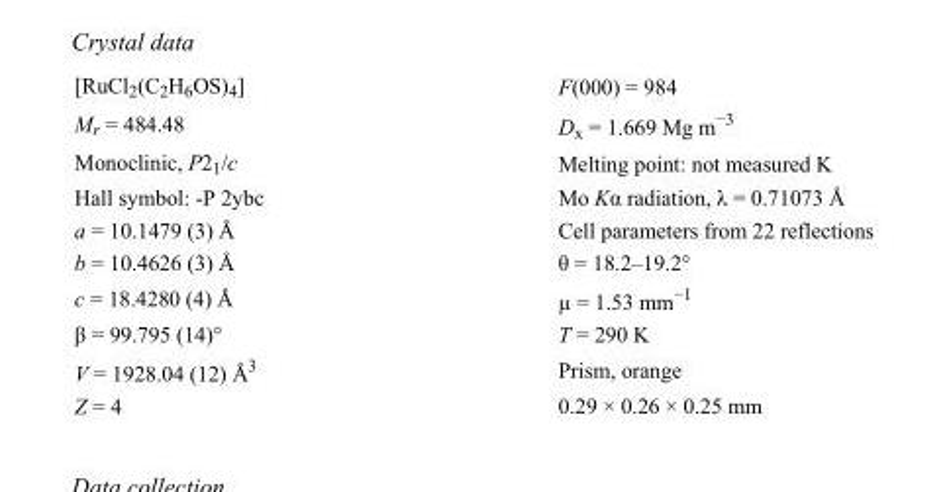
<table><tbody><tr><td>[RuCl<sub>2</sub>(C<sub>2</sub>H<sub>6</sub>OS)<sub>4</sub>]</td><td>F(000) = 984</td></tr><tr><td>M<sub>r</sub> = 484.48</td><td>D<sub>x</sub> = 1.669 Mg m<sup>−3</sup></td></tr><tr><td>Monoclinic, P2<sub>1</sub>/c</td><td>Melting point: not measured K</td></tr><tr><td>Hall symbol: -P 2ybc</td><td>Mo Kα radiation, λ = 0.71073 Å</td></tr><tr><td>a = 10.1479 (3) Å</td><td>Cell parameters from 22 reflections</td></tr><tr><td>b = 10.4626 (3) Å</td><td>θ = 18.2–19.2°</td></tr><tr><td>c = 18.4280 (4) Å</td><td>µ = 1.53 mm<sup>−1</sup></td></tr><tr><td>β = 99.795 (14)°</td><td>T = 290 K</td></tr><tr><td>V = 1928.04 (12) Å<sup>3</sup></td><td>Prism, orange</td></tr><tr><td>Z = 4</td><td>0.29 × 0.26 × 0.25 mm</td></tr></tbody></table>